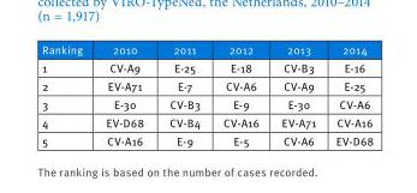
<table><thead><tr><td>Ranking</td><td>2010</td><td>2011</td><td>2012</td><td>2013</td><td>2014</td></tr></thead><tbody><tr><td>1</td><td>CV-A9</td><td>E-25</td><td>E-18</td><td>CV-B3</td><td>E-16</td></tr><tr><td>2</td><td>EV-A71</td><td>E-7</td><td>CV-A6</td><td>CV-A9</td><td>E-25</td></tr><tr><td>3</td><td>E-30</td><td>CV-B3</td><td>E-9</td><td>E-30</td><td>CV-A6</td></tr><tr><td>4</td><td>EV-D68</td><td>CV-B4</td><td>CV-A16</td><td>EV-A71</td><td>CV-A16</td></tr><tr><td>5</td><td>CV-A16</td><td>E-9</td><td>E-5</td><td>CV-A6</td><td>EV-D68</td></tr></tbody></table>